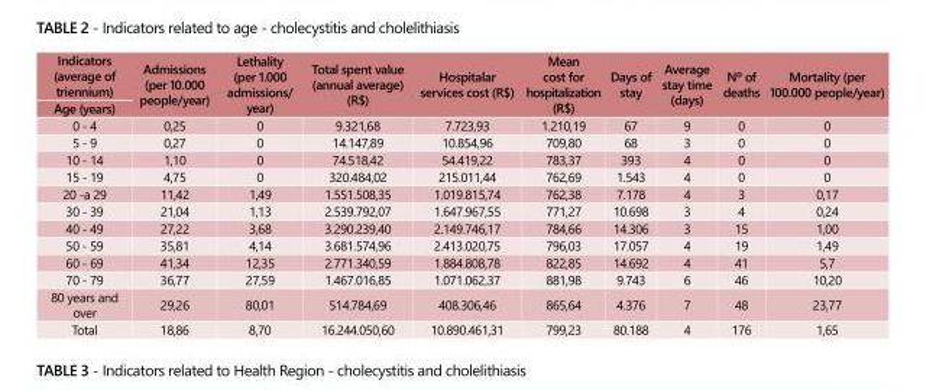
<table><tbody><tr><td>Indicators (average of triennium)</td><td rowspan="2">Admissions (per 10.000 people/year)</td><td rowspan="2">Lethality (per 1.000 admissions/ year)</td><td rowspan="2">Total spent value (annual average) (R$)</td><td rowspan="2">Hospitalar services cost (R$)</td><td rowspan="2">Mean cost for hospitalization (R$)</td><td rowspan="2">Days of stay</td><td rowspan="2">Average stay time (days)</td><td rowspan="2">Nº of deaths</td><td rowspan="2">Mortality (per 100.000 people/year)</td></tr><tr><td>Age (years)</td></tr><tr><td>0 - 4</td><td>0,25</td><td>0</td><td>9.321,68</td><td>7.723,93</td><td>1.210,19</td><td>67</td><td>9</td><td>0</td><td>0</td></tr><tr><td>5 - 9</td><td>0,27</td><td>0</td><td>14.147,89</td><td>10.854,96</td><td>709,80</td><td>68</td><td>3</td><td>0</td><td>0</td></tr><tr><td>10 - 14</td><td>1,10</td><td>0</td><td>74.518,42</td><td>54.419,22</td><td>783,37</td><td>393</td><td>4</td><td>0</td><td>0</td></tr><tr><td>15 - 19</td><td>4,75</td><td>0</td><td>320.484,02</td><td>215.011,44</td><td>762,69</td><td>1.543</td><td>4</td><td>0</td><td>0</td></tr><tr><td>20 -a 29</td><td>11,42</td><td>1,49</td><td>1.551.508,35</td><td>1.019.815,74</td><td>762,38</td><td>7.178</td><td>4</td><td>3</td><td>0,17</td></tr><tr><td>30 - 39</td><td>21,04</td><td>1,13</td><td>2.539.792,07</td><td>1.647.967,55</td><td>771,27</td><td>10.698</td><td>3</td><td>4</td><td>0,24</td></tr><tr><td>40 - 49</td><td>27,22</td><td>3,68</td><td>3.290.239,40</td><td>2.149.746,17</td><td>784,66</td><td>14.306</td><td>3</td><td>15</td><td>1,00</td></tr><tr><td>50 - 59</td><td>35,81</td><td>4,14</td><td>3.681.574,96</td><td>2.413.020,75</td><td>796,03</td><td>17.057</td><td>4</td><td>19</td><td>1,49</td></tr><tr><td>60 - 69</td><td>41,34</td><td>12,35</td><td>2.771.340,59</td><td>1.884.808,78</td><td>822,85</td><td>14.692</td><td>4</td><td>41</td><td>5,7</td></tr><tr><td>70 - 79</td><td>36,77</td><td>27,59</td><td>1.467.016,85</td><td>1.071.062,37</td><td>881,98</td><td>9.743</td><td>6</td><td>46</td><td>10,20</td></tr><tr><td>80 years and over</td><td>29,26</td><td>80,01</td><td>514.784,69</td><td>408.306,46</td><td>865,64</td><td>4.376</td><td>7</td><td>48</td><td>23,77</td></tr><tr><td>Total</td><td>18,86</td><td>8,70</td><td>16.244.050,60</td><td>10.890.461,31</td><td>799,23</td><td>80.188</td><td>4</td><td>176</td><td>1,65</td></tr></tbody></table>